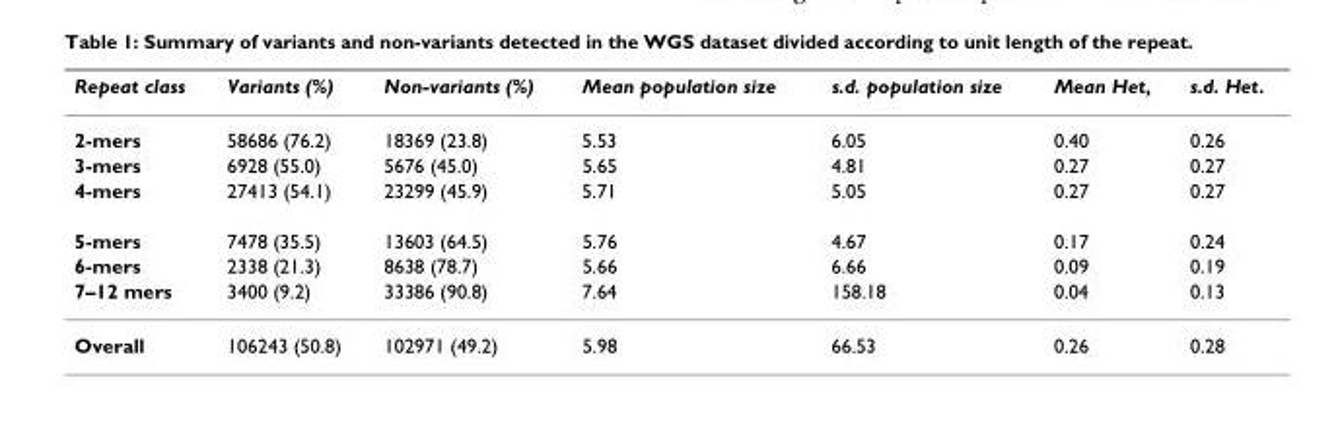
<table><thead><tr><td>Repeat class</td><td>Variants (%)</td><td>Non-variants (%)</td><td>Mean population size</td><td>s.d. population size</td><td>Mean Het,</td><td>s.d. Het.</td></tr></thead><tbody><tr><td>2-mers</td><td>58686 (76.2)</td><td>18369 (23.8)</td><td>5.53</td><td>6.05</td><td>0.40</td><td>0.26</td></tr><tr><td>3-mers</td><td>6928 (55.0)</td><td>5676 (45.0)</td><td>5.65</td><td>4.81</td><td>0.27</td><td>0.27</td></tr><tr><td>4-mers</td><td>27413 (54.1)</td><td>23299 (45.9)</td><td>5.71</td><td>5.05</td><td>0.27</td><td>0.27</td></tr><tr><td>5-mers</td><td>7478 (35.5)</td><td>13603 (64.5)</td><td>5.76</td><td>4.67</td><td>0.17</td><td>0.24</td></tr><tr><td>6-mers</td><td>2338 (21.3)</td><td>8638 (78.7)</td><td>5.66</td><td>6.66</td><td>0.09</td><td>0.19</td></tr><tr><td>7–12 mers</td><td>3400 (9.2)</td><td>33386 (90.8)</td><td>7.64</td><td>158.18</td><td>0.04</td><td>0.13</td></tr><tr><td>Overall</td><td>106243 (50.8)</td><td>102971 (49.2)</td><td>5.98</td><td>66.53</td><td>0.26</td><td>0.28</td></tr></tbody></table>